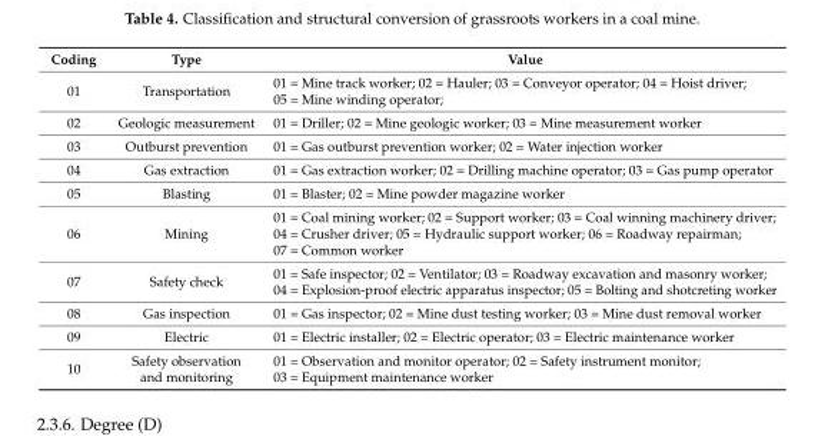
<table><thead><tr><td>Coding</td><td>Type</td><td>Value</td></tr></thead><tbody><tr><td>01</td><td>Transportation</td><td>01 = Mine track worker; 02 = Hauler; 03 = Conveyor operator; 04 = Hoist driver; 05 = Mine winding operator;</td></tr><tr><td>02</td><td>Geologic measurement</td><td>01 = Driller; 02 = Mine geologic worker; 03 = Mine measurement worker</td></tr><tr><td>03</td><td>Outburst prevention</td><td>01 = Gas outburst prevention worker; 02 = Water injection worker</td></tr><tr><td>04</td><td>Gas extraction</td><td>01 = Gas extraction worker; 02 = Drilling machine operator; 03 = Gas pump operator</td></tr><tr><td>05</td><td>Blasting</td><td>01 = Blaster; 02 = Mine powder magazine worker</td></tr><tr><td>06</td><td>Mining</td><td>01 = Coal mining worker; 02 = Support worker; 03 = Coal winning machinery driver; 04 = Crusher driver; 05 = Hydraulic support worker; 06 = Roadway repairman; 07 = Common worker</td></tr><tr><td>07</td><td>Safety check</td><td>01 = Safe inspector; 02 = Ventilator; 03 = Roadway excavation and masonry worker; 04 = Explosion-proof electric apparatus inspector; 05 = Bolting and shotcreting worker</td></tr><tr><td>08</td><td>Gas inspection</td><td>01 = Gas inspector; 02 = Mine dust testing worker; 03 = Mine dust removal worker</td></tr><tr><td>09</td><td>Electric</td><td>01 = Electric installer; 02 = Electric operator; 03 = Electric maintenance worker</td></tr><tr><td>10</td><td>Safety observation and monitoring</td><td>01 = Observation and monitor operator; 02 = Safety instrument monitor; 03 = Equipment maintenance worker</td></tr></tbody></table>